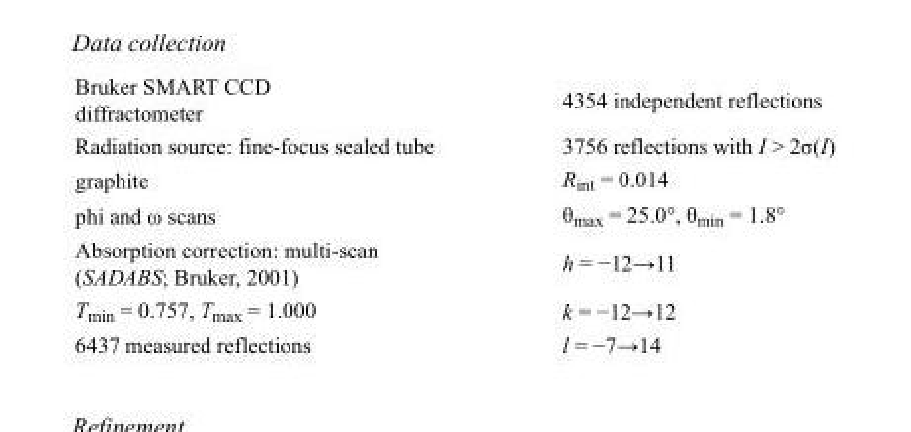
<table><tbody><tr><td>Bruker SMART CCD diffractometer</td><td>4354 independent reflections</td></tr><tr><td>Radiation source: fine-focus sealed tube</td><td>3756 reflections with I &gt; 2σ(I)</td></tr><tr><td>graphite</td><td>R<sub>int</sub> = 0.014</td></tr><tr><td>phi and ω scans</td><td>θ<sub>max</sub> = 25.0°, θ<sub>min</sub> = 1.8°</td></tr><tr><td>Absorption correction: multi-scan (SADABS; Bruker, 2001)</td><td>h = −12→11</td></tr><tr><td>T<sub>min</sub> = 0.757, T<sub>max</sub> = 1.000</td><td>k = −12→12</td></tr><tr><td>6437 measured reflections</td><td>l = −7→14</td></tr></tbody></table>